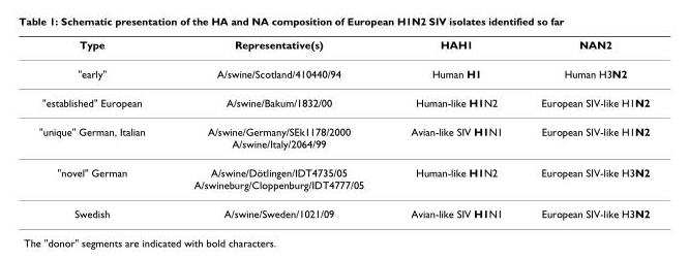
<table><thead><tr><td>Type</td><td>Representative(s)</td><td>HAH1</td><td>NAN2</td></tr></thead><tbody><tr><td>&quot;early&quot;</td><td>A/swine/Scotland/410440/94</td><td>Human H1</td><td>Human H3N2</td></tr><tr><td>&quot;established&quot; European</td><td>A/swine/Bakum/1832/00</td><td>Human-like H1N2</td><td>European SIV-like H1N2</td></tr><tr><td>&quot;unique&quot; German, Italian</td><td>A/swine/Germany/SEk1178/2000 A/swine/Italy/2064/99</td><td>Avian-like SIV H1N1</td><td>European SIV-like H1N2</td></tr><tr><td>&quot;novel&quot; German</td><td>A/swine/Dötlingen/IDT4735/05 A/swineburg/Cloppenburg/IDT4777/05</td><td>Human-like H1N2</td><td>European SIV-like H3N2</td></tr><tr><td>Swedish</td><td>A/swine/Sweden/1021/09</td><td>Avian-like SIV H1N1</td><td>European SIV-like H3N2</td></tr></tbody></table>